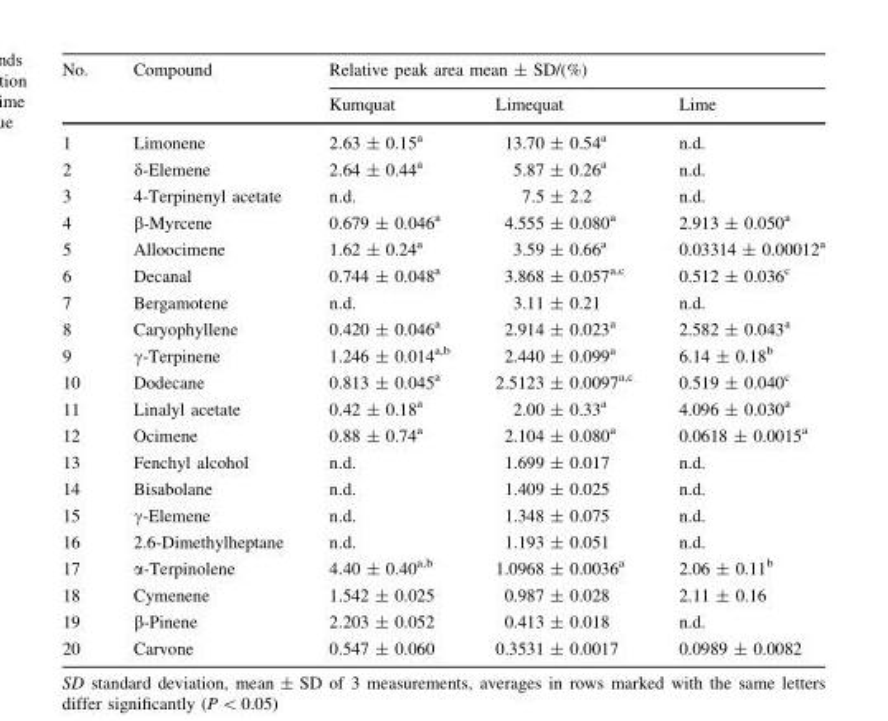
<table><thead><tr><td rowspan="2">No.</td><td rowspan="2">Compound</td><td colspan="3">Relative peak area mean ± SD/(%)</td></tr><tr><td>Kumquat</td><td>Limequat</td><td>Lime</td></tr></thead><tbody><tr><td>1</td><td>Limonene</td><td>2.63 ± 0.15<sup>a</sup></td><td>13.70 ± 0.54<sup>a</sup></td><td>n.d.</td></tr><tr><td>2</td><td>δ-Elemene</td><td>2.64 ± 0.44<sup>a</sup></td><td>5.87 ± 0.26<sup>a</sup></td><td>n.d.</td></tr><tr><td>3</td><td>4-Terpinenyl acetate</td><td>n.d.</td><td>7.5 ± 2.2</td><td>n.d.</td></tr><tr><td>4</td><td>β-Myrcene</td><td>0.679 ± 0.046<sup>a</sup></td><td>4.555 ± 0.080<sup>a</sup></td><td>2.913 ± 0.050<sup>a</sup></td></tr><tr><td>5</td><td>Alloocimene</td><td>1.62 ± 0.24<sup>a</sup></td><td>3.59 ± 0.66<sup>a</sup></td><td>0.03314 ± 0.00012<sup>a</sup></td></tr><tr><td>6</td><td>Decanal</td><td>0.744 ± 0.048<sup>a</sup></td><td>3.868 ± 0.057<sup>a,c</sup></td><td>0.512 ± 0.036<sup>c</sup></td></tr><tr><td>7</td><td>Bergamotene</td><td>n.d.</td><td>3.11 ± 0.21</td><td>n.d.</td></tr><tr><td>8</td><td>Caryophyllene</td><td>0.420 ± 0.046<sup>a</sup></td><td>2.914 ± 0.023<sup>a</sup></td><td>2.582 ± 0.043<sup>a</sup></td></tr><tr><td>9</td><td>γ-Terpinene</td><td>1.246 ± 0.014<sup>a,b</sup></td><td>2.440 ± 0.099<sup>a</sup></td><td>6.14 ± 0.18<sup>b</sup></td></tr><tr><td>10</td><td>Dodecane</td><td>0.813 ± 0.045<sup>a</sup></td><td>2.5123 ± 0.0097<sup>a,c</sup></td><td>0.519 ± 0.040<sup>c</sup></td></tr><tr><td>11</td><td>Linalyl acetate</td><td>0.42 ± 0.18<sup>a</sup></td><td>2.00 ± 0.33<sup>a</sup></td><td>4.096 ± 0.030<sup>a</sup></td></tr><tr><td>12</td><td>Ocimene</td><td>0.88 ± 0.74<sup>a</sup></td><td>2.104 ± 0.080<sup>a</sup></td><td>0.0618 ± 0.0015<sup>a</sup></td></tr><tr><td>13</td><td>Fenchyl alcohol</td><td>n.d.</td><td>1.699 ± 0.017</td><td>n.d.</td></tr><tr><td>14</td><td>Bisabolane</td><td>n.d.</td><td>1.409 ± 0.025</td><td>n.d.</td></tr><tr><td>15</td><td>γ-Elemene</td><td>n.d.</td><td>1.348 ± 0.075</td><td>n.d.</td></tr><tr><td>16</td><td>2.6-Dimethylheptane</td><td>n.d.</td><td>1.193 ± 0.051</td><td>n.d.</td></tr><tr><td>17</td><td>α-Terpinolene</td><td>4.40 ± 0.40<sup>a,b</sup></td><td>1.0968 ± 0.0036<sup>a</sup></td><td>2.06 ± 0.11<sup>b</sup></td></tr><tr><td>18</td><td>Cymenene</td><td>1.542 ± 0.025</td><td>0.987 ± 0.028</td><td>2.11 ± 0.16</td></tr><tr><td>19</td><td>β-Pinene</td><td>2.203 ± 0.052</td><td>0.413 ± 0.018</td><td>n.d.</td></tr><tr><td>20</td><td>Carvone</td><td>0.547 ± 0.060</td><td>0.3531 ± 0.0017</td><td>0.0989 ± 0.0082</td></tr></tbody></table>